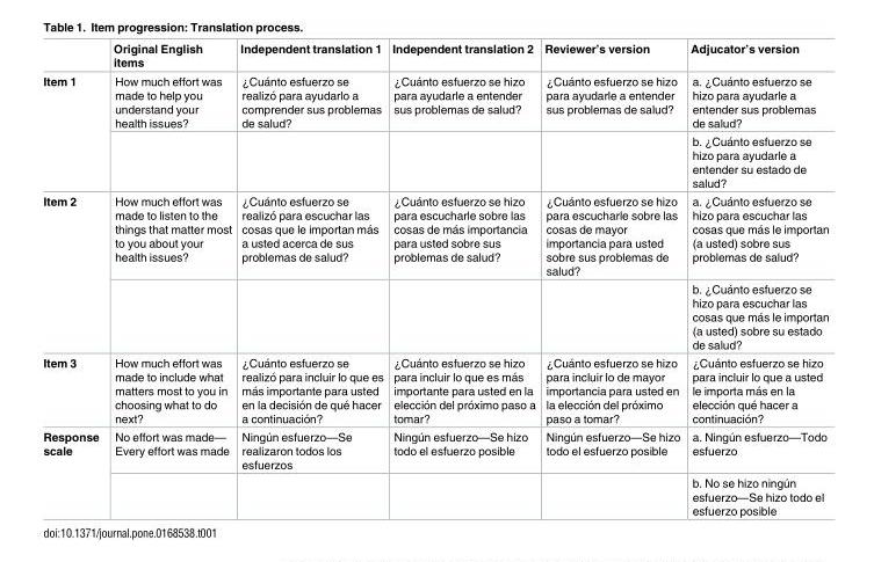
<table><thead><tr><td></td><td>Original English items</td><td>Independent translation 1</td><td>Independent translation 2</td><td>Reviewer’s version</td><td>Adjucator’s version</td></tr></thead><tbody><tr><td rowspan="2">Item 1</td><td>How much effort was made to help you understand your health issues?</td><td>¿Cua´nto esfuerzo se realizo´ para ayudarlo a comprender sus problemas de salud?</td><td>¿Cua´nto esfuerzo se hizo para ayudarle a entender sus problemas de salud?</td><td>¿Cua´nto esfuerzo se hizo para ayudarle a entender sus problemas de salud?</td><td>a. ¿Cua´nto esfuerzo se hizo para ayudarle a entender sus problemas de salud?</td></tr><tr><td></td><td></td><td></td><td></td><td>b. ¿Cua´nto esfuerzo se hizo para ayudarle a entender su estado de salud?</td></tr><tr><td rowspan="2">Item 2</td><td>How much effort was made to listen to the things that matter most to you about your health issues?</td><td>¿Cua´nto esfuerzo se realizo´ para escuchar las cosas que le importan ma´s a usted acerca de sus problemas de salud?</td><td>¿Cua´nto esfuerzo se hizo para escucharle sobre las cosas de ma´s importancia para usted sobre sus problemas de salud?</td><td>¿Cua´nto esfuerzo se hizo para escucharle sobre las cosas de mayor importancia para usted sobre sus problemas de salud?</td><td>a. ¿Cua´nto esfuerzo se hizo para escuchar las cosas que ma´s le importan (a usted) sobre sus problemas de salud?</td></tr><tr><td></td><td></td><td></td><td></td><td>b. ¿Cua´nto esfuerzo se hizo para escuchar las cosas que ma´s le importan (a usted) sobre su estado de salud?</td></tr><tr><td>Item 3</td><td>How much effort was made to include what matters most to you in choosing what to do next?</td><td>¿Cua´nto esfuerzo se realizo´ para incluir lo que es ma´s importante para usted en la decisio´n de que´ hacer a continuacio´n?</td><td>¿Cua´nto esfuerzo se hizo para incluir lo que es ma´s importante para usted en la eleccio´n del pro´ximo paso a tomar?</td><td>¿Cua´nto esfuerzo se hizo para incluir lo de mayor importancia para usted en la eleccio´n del pro´ximo paso a tomar?</td><td>¿Cua´nto esfuerzo se hizo para incluir lo que a usted le importa ma´s en la eleccio´n que´ hacer a continuacio´n?</td></tr><tr><td rowspan="2">Response scale</td><td>No effort was made— Every effort was made</td><td>Ningu´n esfuerzo—Se realizaron todos los esfuerzos</td><td>Ningu´n esfuerzo—Se hizo todo el esfuerzo posible</td><td>Ningu´n esfuerzo—Se hizo todo el esfuerzo posible</td><td>a. Ningu´n esfuerzo—Todo esfuerzo</td></tr><tr><td></td><td></td><td></td><td></td><td>b. No se hizo ningu´n esfuerzo—Se hizo todo el esfuerzo posible</td></tr></tbody></table>